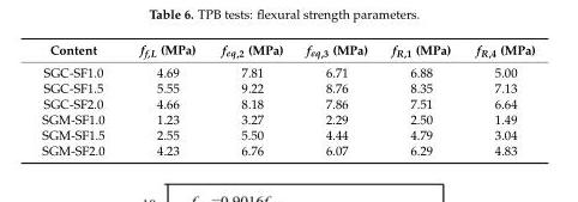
<table><thead><tr><td>Content</td><td>f<sub>f,L</sub> (MPa)</td><td>f<sub>eq,2</sub> (MPa)</td><td>f<sub>eq,3</sub> (MPa)</td><td>f<sub>R,1</sub> (MPa)</td><td>f<sub>R,4</sub> (MPa)</td></tr></thead><tbody><tr><td>SGC-SF1.0</td><td>4.69</td><td>7.81</td><td>6.71</td><td>6.88</td><td>5.00</td></tr><tr><td>SGC-SF1.5</td><td>5.55</td><td>9.22</td><td>8.76</td><td>8.35</td><td>7.13</td></tr><tr><td>SGC-SF2.0</td><td>4.66</td><td>8.18</td><td>7.86</td><td>7.51</td><td>6.64</td></tr><tr><td>SGM-SF1.0</td><td>1.23</td><td>3.27</td><td>2.29</td><td>2.50</td><td>1.49</td></tr><tr><td>SGM-SF1.5</td><td>2.55</td><td>5.50</td><td>4.44</td><td>4.79</td><td>3.04</td></tr><tr><td>SGM-SF2.0</td><td>4.23</td><td>6.76</td><td>6.07</td><td>6.29</td><td>4.83</td></tr></tbody></table>